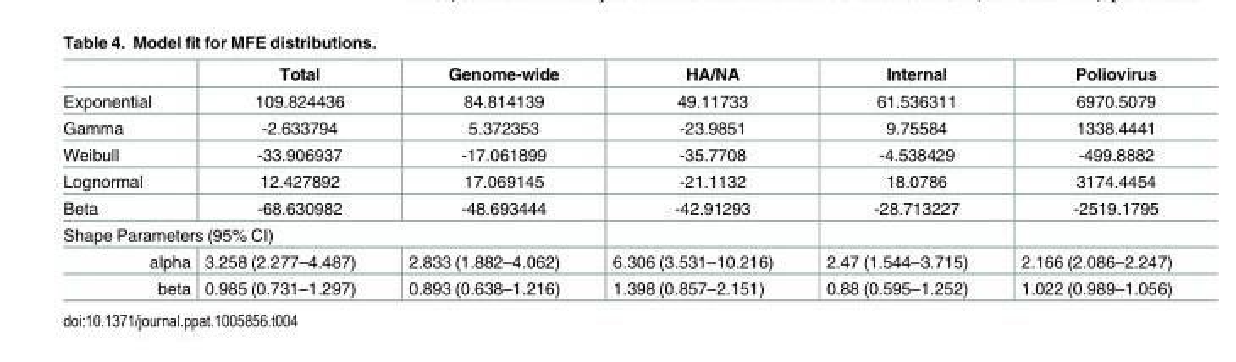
<table><thead><tr><td></td><td>Total</td><td>Genome-wide</td><td>HA/NA</td><td>Internal</td><td>Poliovirus</td></tr></thead><tbody><tr><td>Exponential</td><td>109.824436</td><td>84.814139</td><td>49.11733</td><td>61.536311</td><td>6970.5079</td></tr><tr><td>Gamma</td><td>-2.633794</td><td>5.372353</td><td>-23.9851</td><td>9.75584</td><td>1338.4441</td></tr><tr><td>Weibull</td><td>-33.906937</td><td>-17.061899</td><td>-35.7708</td><td>-4.538429</td><td>-499.8882</td></tr><tr><td>Lognormal</td><td>12.427892</td><td>17.069145</td><td>-21.1132</td><td>18.0786</td><td>3174.4454</td></tr><tr><td>Beta</td><td>-68.630982</td><td>-48.693444</td><td>-42.91293</td><td>-28.713227</td><td>-2519.1795</td></tr><tr><td colspan="6">Shape Parameters (95% CI)</td></tr><tr><td>alpha</td><td>3.258 (2.277–4.487)</td><td>2.833 (1.882–4.062)</td><td>6.306 (3.531–10.216)</td><td>2.47 (1.544–3.715)</td><td>2.166 (2.086–2.247)</td></tr><tr><td>beta</td><td>0.985 (0.731–1.297)</td><td>0.893 (0.638–1.216)</td><td>1.398 (0.857–2.151)</td><td>0.88 (0.595–1.252)</td><td>1.022 (0.989–1.056)</td></tr></tbody></table>